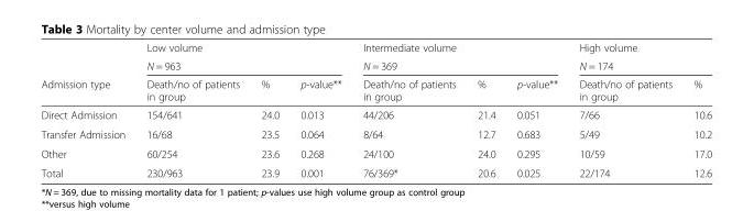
<table><thead><tr><td rowspan="3">Admission type</td><td rowspan="2" colspan="3">Low volume N = 963</td><td rowspan="2" colspan="3">Intermediate volume N = 369</td><td rowspan="2" colspan="2">High volume N = 174</td></tr><tr></tr><tr><td>Death/no of patients in group</td><td>%</td><td>p-value**</td><td>Death/no of patients in group</td><td>%</td><td>p-value**</td><td>Death/no of patients in group</td><td>%</td></tr></thead><tbody><tr><td>Direct Admission</td><td>154/641</td><td>24.0</td><td>0.013</td><td>44/206</td><td>21.4</td><td>0.051</td><td>7/66</td><td>10.6</td></tr><tr><td>Transfer Admission</td><td>16/68</td><td>23.5</td><td>0.064</td><td>8/64</td><td>12.7</td><td>0.683</td><td>5/49</td><td>10.2</td></tr><tr><td>Other</td><td>60/254</td><td>23.6</td><td>0.268</td><td>24/100</td><td>24.0</td><td>0.295</td><td>10/59</td><td>17.0</td></tr><tr><td>Total</td><td>230/963</td><td>23.9</td><td>0.001</td><td>76/369*</td><td>20.6</td><td>0.025</td><td>22/174</td><td>12.6</td></tr></tbody></table>